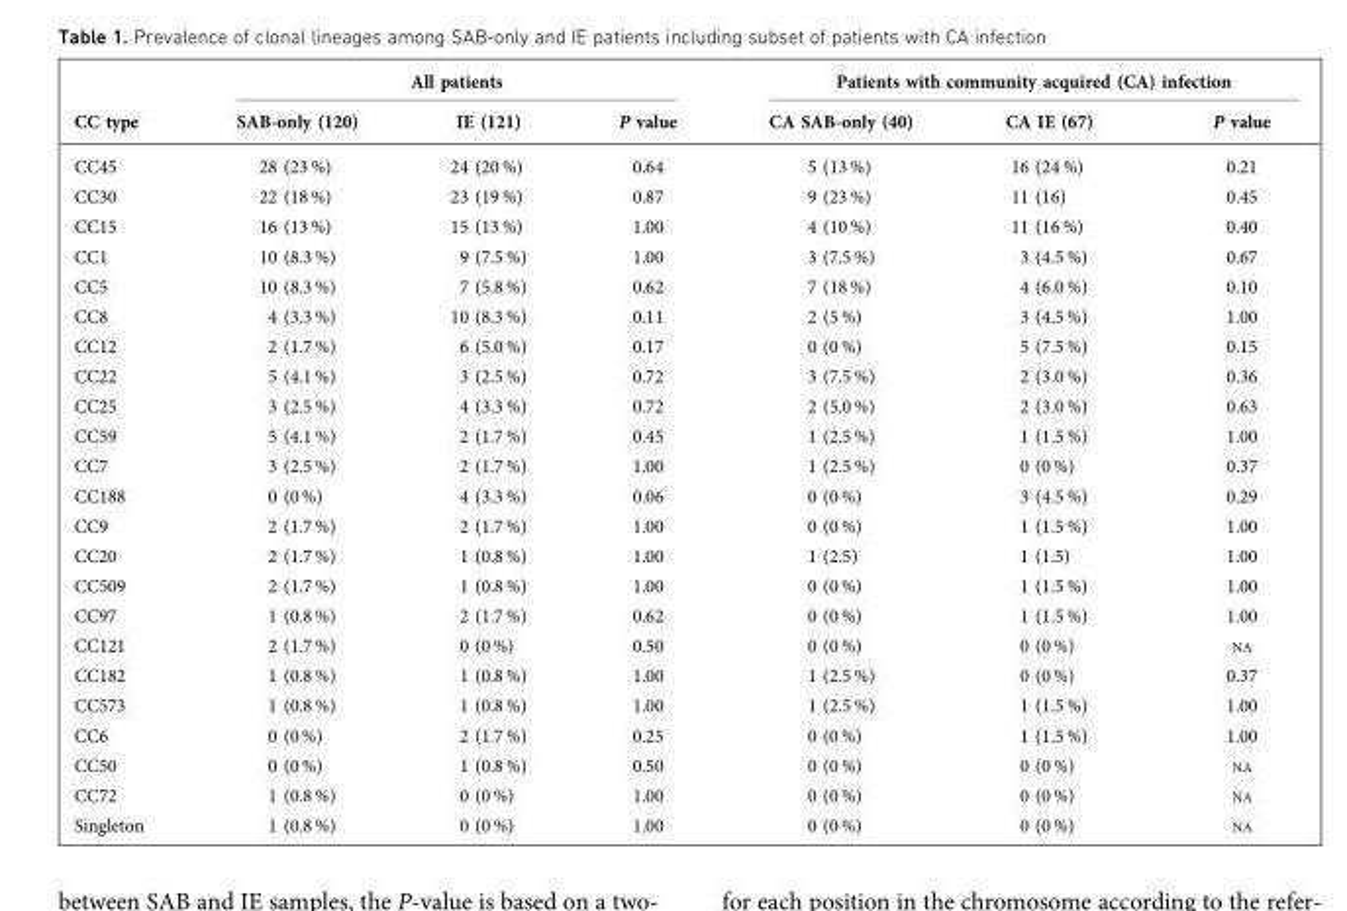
<table><thead><tr><td rowspan="2">CC type</td><td colspan="3">All patients</td><td colspan="3">Patients with community acquired (CA) infection</td></tr><tr><td>SAB-only (120)</td><td>IE (121)</td><td>P value</td><td>CA SAB-only (40)</td><td>CA IE (67)</td><td>P value</td></tr></thead><tbody><tr><td>CC45</td><td>28 (23 %)</td><td>24 (20 %)</td><td>0.64</td><td>5 (13 %)</td><td>16 (24 %)</td><td>0.21</td></tr><tr><td>CC30</td><td>22 (18 %)</td><td>23 (19 %)</td><td>0.87</td><td>9 (23 %)</td><td>11 (16)</td><td>0.45</td></tr><tr><td>CC15</td><td>16 (13 %)</td><td>15 (13 %)</td><td>1.00</td><td>4 (10 %)</td><td>11 (16 %)</td><td>0.40</td></tr><tr><td>CC1</td><td>10 (8.3 %)</td><td>9 (7.5 %)</td><td>1.00</td><td>3 (7.5 %)</td><td>3 (4.5 %)</td><td>0.67</td></tr><tr><td>CC5</td><td>10 (8.3 %)</td><td>7 (5.8 %)</td><td>0.62</td><td>7 (18 %)</td><td>4 (6.0 %)</td><td>0.10</td></tr><tr><td>CC8</td><td>4 (3.3 %)</td><td>10 (8.3 %)</td><td>0.11</td><td>2 (5 %)</td><td>3 (4.5 %)</td><td>1.00</td></tr><tr><td>CC12</td><td>2 (1.7 %)</td><td>6 (5.0 %)</td><td>0.17</td><td>0 (0 %)</td><td>5 (7.5 %)</td><td>0.15</td></tr><tr><td>CC22</td><td>5 (4.1 %)</td><td>3 (2.5 %)</td><td>0.72</td><td>3 (7.5 %)</td><td>2 (3.0 %)</td><td>0.36</td></tr><tr><td>CC25</td><td>3 (2.5 %)</td><td>4 (3.3 %)</td><td>0.72</td><td>2 (5.0 %)</td><td>2 (3.0 %)</td><td>0.63</td></tr><tr><td>CC59</td><td>5 (4.1 %)</td><td>2 (1.7 %)</td><td>0.45</td><td>1 (2.5 %)</td><td>1 (1.5 %)</td><td>1.00</td></tr><tr><td>CC7</td><td>3 (2.5 %)</td><td>2 (1.7 %)</td><td>1.00</td><td>1 (2.5 %)</td><td>0 (0 %)</td><td>0.37</td></tr><tr><td>CC188</td><td>0 (0 %)</td><td>4 (3.3 %)</td><td>0.06</td><td>0 (0 %)</td><td>3 (4.5 %)</td><td>0.29</td></tr><tr><td>CC9</td><td>2 (1.7 %)</td><td>2 (1.7 %)</td><td>1.00</td><td>0 (0 %)</td><td>1 (1.5 %)</td><td>1.00</td></tr><tr><td>CC20</td><td>2 (1.7 %)</td><td>1 (0.8 %)</td><td>1.00</td><td>1 (2.5)</td><td>1 (1.5)</td><td>1.00</td></tr><tr><td>CC509</td><td>2 (1.7 %)</td><td>1 (0.8 %)</td><td>1.00</td><td>0 (0 %)</td><td>1 (1.5 %)</td><td>1.00</td></tr><tr><td>CC97</td><td>1 (0.8 %)</td><td>2 (1.7 %)</td><td>0.62</td><td>0 (0 %)</td><td>1 (1.5 %)</td><td>1.00</td></tr><tr><td>CC121</td><td>2 (1.7 %)</td><td>0 (0 %)</td><td>0.50</td><td>0 (0 %)</td><td>0 (0 %)</td><td>NA</td></tr><tr><td>CC182</td><td>1 (0.8 %)</td><td>1 (0.8 %)</td><td>1.00</td><td>1 (2.5 %)</td><td>0 (0 %)</td><td>0.37</td></tr><tr><td>CC573</td><td>1 (0.8 %)</td><td>1 (0.8 %)</td><td>1.00</td><td>1 (2.5 %)</td><td>1 (1.5 %)</td><td>1.00</td></tr><tr><td>CC6</td><td>0 (0 %)</td><td>2 (1.7 %)</td><td>0.25</td><td>0 (0 %)</td><td>1 (1.5 %)</td><td>1.00</td></tr><tr><td>CC50</td><td>0 (0 %)</td><td>1 (0.8 %)</td><td>0.50</td><td>0 (0 %)</td><td>0 (0 %)</td><td>NA</td></tr><tr><td>CC72</td><td>1 (0.8 %)</td><td>0 (0 %)</td><td>1.00</td><td>0 (0 %)</td><td>0 (0 %)</td><td>NA</td></tr><tr><td>Singleton</td><td>1 (0.8 %)</td><td>0 (0 %)</td><td>1.00</td><td>0 (0 %)</td><td>0 (0 %)</td><td>NA</td></tr></tbody></table>